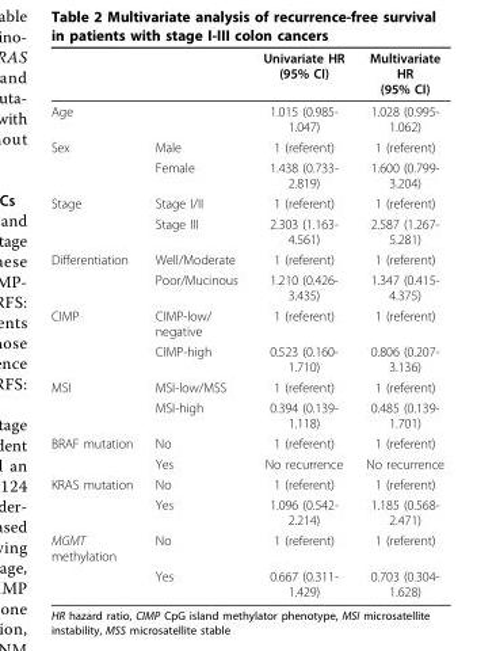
<table><thead><tr><td></td><td></td><td>Univariate HR (95% CI)</td><td>Multivariate HR (95% CI)</td></tr></thead><tbody><tr><td>Age</td><td></td><td>1.015 (0.985- 1.047)</td><td>1.028 (0.995- 1.062)</td></tr><tr><td rowspan="2">Sex</td><td>Male</td><td>1 (referent)</td><td>1 (referent)</td></tr><tr><td>Female</td><td>1.438 (0.733- 2.819)</td><td>1.600 (0.799- 3.204)</td></tr><tr><td rowspan="2">Stage</td><td>Stage I/II</td><td>1 (referent)</td><td>1 (referent)</td></tr><tr><td>Stage III</td><td>2.303 (1.163- 4.561)</td><td>2.587 (1.267- 5.281)</td></tr><tr><td rowspan="2">Differentiation</td><td>Well/Moderate</td><td>1 (referent)</td><td>1 (referent)</td></tr><tr><td>Poor/Mucinous</td><td>1.210 (0.426- 3.435)</td><td>1.347 (0.415- 4.375)</td></tr><tr><td rowspan="2">CIMP</td><td>CIMP-low/ negative</td><td>1 (referent)</td><td>1 (referent)</td></tr><tr><td>CIMP-high</td><td>0.523 (0.160- 1.710)</td><td>0.806 (0.207- 3.136)</td></tr><tr><td rowspan="2">MSI</td><td>MSI-low/MSS</td><td>1 (referent)</td><td>1 (referent)</td></tr><tr><td>MSI-high</td><td>0.394 (0.139- 1.118)</td><td>0.485 (0.139- 1.701)</td></tr><tr><td rowspan="2">BRAF mutation</td><td>No</td><td>1 (referent)</td><td>1 (referent)</td></tr><tr><td>Yes</td><td>No recurrence</td><td>No recurrence</td></tr><tr><td rowspan="2">KRAS mutation</td><td>No</td><td>1 (referent)</td><td>1 (referent)</td></tr><tr><td>Yes</td><td>1.096 (0.542- 2.214)</td><td>1.185 (0.568- 2.471)</td></tr><tr><td rowspan="2">MGMT methylation</td><td>No</td><td>1 (referent)</td><td>1 (referent)</td></tr><tr><td>Yes</td><td>0.667 (0.311- 1.429)</td><td>0.703 (0.304- 1.628)</td></tr></tbody></table>